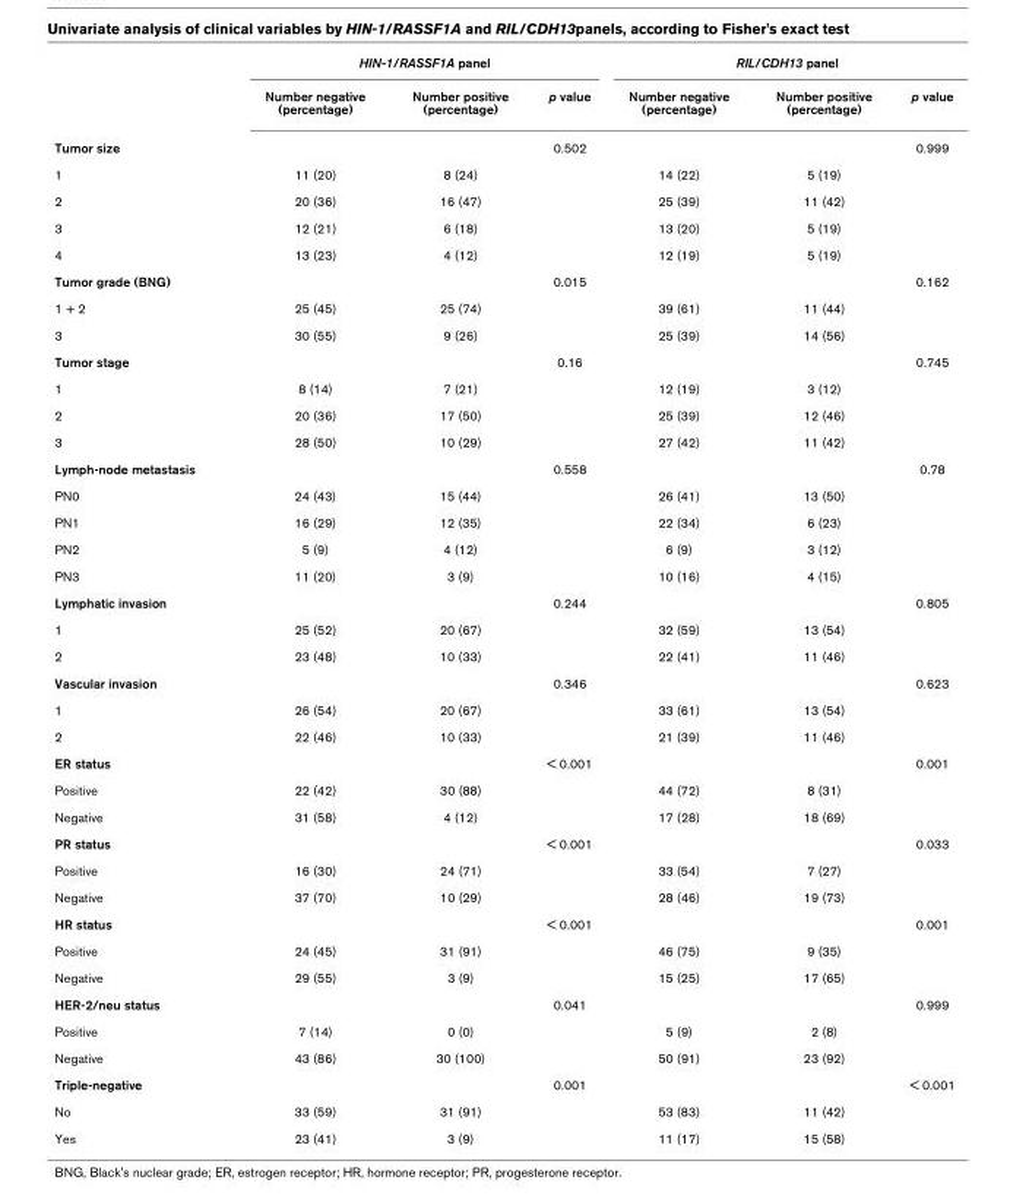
<table><thead><tr><td rowspan="2"></td><td colspan="3">HIN-1/RASSF1A panel</td><td colspan="3">RIL/CDH13 panel</td></tr><tr><td>Number negative (percentage)</td><td>Number positive (percentage)</td><td>p value</td><td>Number negative (percentage)</td><td>Number positive (percentage)</td><td>p value</td></tr></thead><tbody><tr><td>Tumor size</td><td></td><td></td><td>0.502</td><td></td><td></td><td>0.999</td></tr><tr><td>1</td><td>11 (20)</td><td>8 (24)</td><td></td><td>14 (22)</td><td>5 (19)</td><td></td></tr><tr><td>2</td><td>20 (36)</td><td>16 (47)</td><td></td><td>25 (39)</td><td>11 (42)</td><td></td></tr><tr><td>3</td><td>12 (21)</td><td>6 (18)</td><td></td><td>13 (20)</td><td>5 (19)</td><td></td></tr><tr><td>4</td><td>13 (23)</td><td>4 (12)</td><td></td><td>12 (19)</td><td>5 (19)</td><td></td></tr><tr><td>Tumor grade (BNG)</td><td></td><td></td><td>0.015</td><td></td><td></td><td>0.162</td></tr><tr><td>1 + 2</td><td>25 (45)</td><td>25 (74)</td><td></td><td>39 (61)</td><td>11 (44)</td><td></td></tr><tr><td>3</td><td>30 (55)</td><td>9 (26)</td><td></td><td>25 (39)</td><td>14 (56)</td><td></td></tr><tr><td>Tumor stage</td><td></td><td></td><td>0.16</td><td></td><td></td><td>0.745</td></tr><tr><td>1</td><td>8 (14)</td><td>7 (21)</td><td></td><td>12 (19)</td><td>3 (12)</td><td></td></tr><tr><td>2</td><td>20 (36)</td><td>17 (50)</td><td></td><td>25 (39)</td><td>12 (46)</td><td></td></tr><tr><td>3</td><td>28 (50)</td><td>10 (29)</td><td></td><td>27 (42)</td><td>11 (42)</td><td></td></tr><tr><td>Lymph-node metastasis</td><td></td><td></td><td>0.558</td><td></td><td></td><td>0.78</td></tr><tr><td>PN0</td><td>24 (43)</td><td>15 (44)</td><td></td><td>26 (41)</td><td>13 (50)</td><td></td></tr><tr><td>PN1</td><td>16 (29)</td><td>12 (35)</td><td></td><td>22 (34)</td><td>6 (23)</td><td></td></tr><tr><td>PN2</td><td>5 (9)</td><td>4 (12)</td><td></td><td>6 (9)</td><td>3 (12)</td><td></td></tr><tr><td>PN3</td><td>11 (20)</td><td>3 (9)</td><td></td><td>10 (16)</td><td>4 (15)</td><td></td></tr><tr><td>Lymphatic invasion</td><td></td><td></td><td>0.244</td><td></td><td></td><td>0.805</td></tr><tr><td>1</td><td>25 (52)</td><td>20 (67)</td><td></td><td>32 (59)</td><td>13 (54)</td><td></td></tr><tr><td>2</td><td>23 (48)</td><td>10 (33)</td><td></td><td>22 (41)</td><td>11 (46)</td><td></td></tr><tr><td>Vascular invasion</td><td></td><td></td><td>0.346</td><td></td><td></td><td>0.623</td></tr><tr><td>1</td><td>26 (54)</td><td>20 (67)</td><td></td><td>33 (61)</td><td>13 (54)</td><td></td></tr><tr><td>2</td><td>22 (46)</td><td>10 (33)</td><td></td><td>21 (39)</td><td>11 (46)</td><td></td></tr><tr><td>ER status</td><td></td><td></td><td>&lt; 0.001</td><td></td><td></td><td>0.001</td></tr><tr><td>Positive</td><td>22 (42)</td><td>30 (88)</td><td></td><td>44 (72)</td><td>8 (31)</td><td></td></tr><tr><td>Negative</td><td>31 (58)</td><td>4 (12)</td><td></td><td>17 (28)</td><td>18 (69)</td><td></td></tr><tr><td>PR status</td><td></td><td></td><td>&lt; 0.001</td><td></td><td></td><td>0.033</td></tr><tr><td>Positive</td><td>16 (30)</td><td>24 (71)</td><td></td><td>33 (54)</td><td>7 (27)</td><td></td></tr><tr><td>Negative</td><td>37 (70)</td><td>10 (29)</td><td></td><td>28 (46)</td><td>19 (73)</td><td></td></tr><tr><td>HR status</td><td></td><td></td><td>&lt; 0.001</td><td></td><td></td><td>0.001</td></tr><tr><td>Positive</td><td>24 (45)</td><td>31 (91)</td><td></td><td>46 (75)</td><td>9 (35)</td><td></td></tr><tr><td>Negative</td><td>29 (55)</td><td>3 (9)</td><td></td><td>15 (25)</td><td>17 (65)</td><td></td></tr><tr><td>HER-2/neu status</td><td></td><td></td><td>0.041</td><td></td><td></td><td>0.999</td></tr><tr><td>Positive</td><td>7 (14)</td><td>0 (0)</td><td></td><td>5 (9)</td><td>2 (8)</td><td></td></tr><tr><td>Negative</td><td>43 (86)</td><td>30 (100)</td><td></td><td>50 (91)</td><td>23 (92)</td><td></td></tr><tr><td>Triple-negative</td><td></td><td></td><td>0.001</td><td></td><td></td><td>&lt; 0.001</td></tr><tr><td>No</td><td>33 (59)</td><td>31 (91)</td><td></td><td>53 (83)</td><td>11 (42)</td><td></td></tr><tr><td>Yes</td><td>23 (41)</td><td>3 (9)</td><td></td><td>11 (17)</td><td>15 (58)</td><td></td></tr></tbody></table>